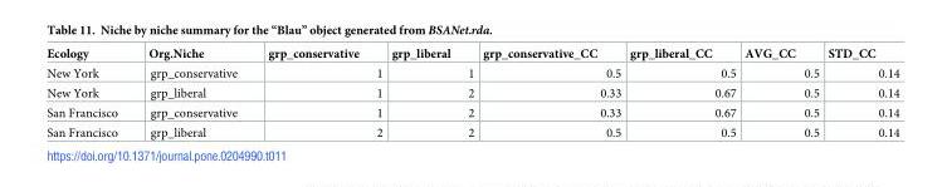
<table><thead><tr><td>Ecology</td><td>Org.Niche</td><td>grp_conservative</td><td>grp_liberal</td><td>grp_conservative_CC</td><td>grp_liberal_CC</td><td>AVG_CC</td><td>STD_CC</td></tr></thead><tbody><tr><td>New York</td><td>grp_conservative</td><td>1</td><td>1</td><td>0.5</td><td>0.5</td><td>0.5</td><td>0.14</td></tr><tr><td>New York</td><td>grp_liberal</td><td>1</td><td>2</td><td>0.33</td><td>0.67</td><td>0.5</td><td>0.14</td></tr><tr><td>San Francisco</td><td>grp_conservative</td><td>1</td><td>2</td><td>0.33</td><td>0.67</td><td>0.5</td><td>0.14</td></tr><tr><td>San Francisco</td><td>grp_liberal</td><td>2</td><td>2</td><td>0.5</td><td>0.5</td><td>0.5</td><td>0.14</td></tr></tbody></table>